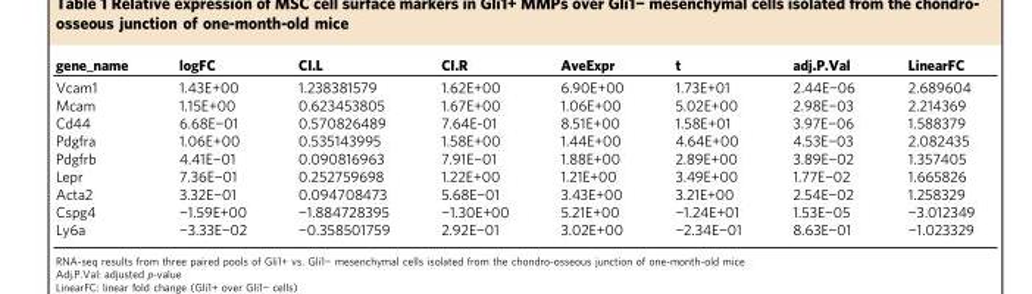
<table><thead><tr><td>gene_name</td><td>logFC</td><td>CI.L</td><td>CI.R</td><td>AveExpr</td><td>t</td><td>adj.P.Val</td><td>LinearFC</td></tr></thead><tbody><tr><td>Vcam1</td><td>1.43E+00</td><td>1.238381579</td><td>1.62E+00</td><td>6.90E+00</td><td>1.73E+01</td><td>2.44E−06</td><td>2.689604</td></tr><tr><td>Mcam</td><td>1.15E+00</td><td>0.623453805</td><td>1.67E+00</td><td>1.06E+00</td><td>5.02E+00</td><td>2.98E−03</td><td>2.214369</td></tr><tr><td>Cd44</td><td>6.68E−01</td><td>0.570826489</td><td>7.64E-01</td><td>8.51E+00</td><td>1.58E+01</td><td>3.97E−06</td><td>1.588379</td></tr><tr><td>Pdgfra</td><td>1.06E+00</td><td>0.535143995</td><td>1.58E+00</td><td>1.44E+00</td><td>4.64E+00</td><td>4.53E−03</td><td>2.082435</td></tr><tr><td>Pdgfrb</td><td>4.41E−01</td><td>0.090816963</td><td>7.91E−01</td><td>1.88E+00</td><td>2.89E+00</td><td>3.89E−02</td><td>1.357405</td></tr><tr><td>Lepr</td><td>7.36E−01</td><td>0.252759698</td><td>1.22E+00</td><td>1.21E+00</td><td>3.49E+00</td><td>1.77E−02</td><td>1.665826</td></tr><tr><td>Acta2</td><td>3.32E−01</td><td>0.094708473</td><td>5.68E−01</td><td>3.43E+00</td><td>3.21E+00</td><td>2.54E−02</td><td>1.258329</td></tr><tr><td>Cspg4</td><td>−1.59E+00</td><td>−1.884728395</td><td>−1.30E+00</td><td>5.21E+00</td><td>−1.24E+01</td><td>1.53E−05</td><td>−3.012349</td></tr><tr><td>Ly6a</td><td>−3.33E−02</td><td>−0.358501759</td><td>2.92E−01</td><td>3.02E+00</td><td>−2.34E−01</td><td>8.63E−01</td><td>−1.023329</td></tr></tbody></table>